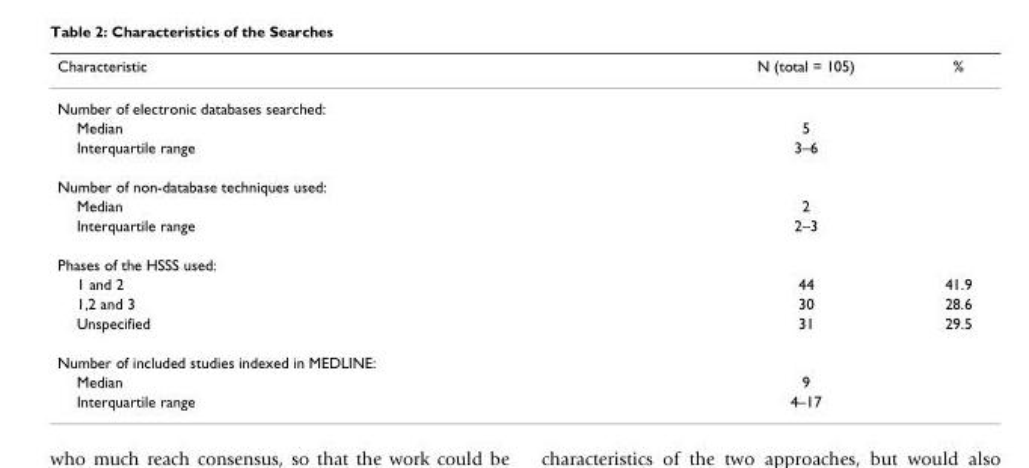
<table><thead><tr><td>Characteristic</td><td>N (total = 105)</td><td>%</td></tr></thead><tbody><tr><td colspan="3">Number of electronic databases searched:</td></tr><tr><td>Median</td><td>5</td><td></td></tr><tr><td>Interquartile range</td><td>3–6</td><td></td></tr><tr><td colspan="3">Number of non-database techniques used:</td></tr><tr><td>Median</td><td>2</td><td></td></tr><tr><td>Interquartile range</td><td>2–3</td><td></td></tr><tr><td colspan="3">Phases of the HSSS used:</td></tr><tr><td>1 and 2</td><td>44</td><td>41.9</td></tr><tr><td>1,2 and 3</td><td>30</td><td>28.6</td></tr><tr><td>Unspecified</td><td>31</td><td>29.5</td></tr><tr><td colspan="3">Number of included studies indexed in MEDLINE:</td></tr><tr><td>Median</td><td>9</td><td></td></tr><tr><td>Interquartile range</td><td>4–17</td><td></td></tr></tbody></table>